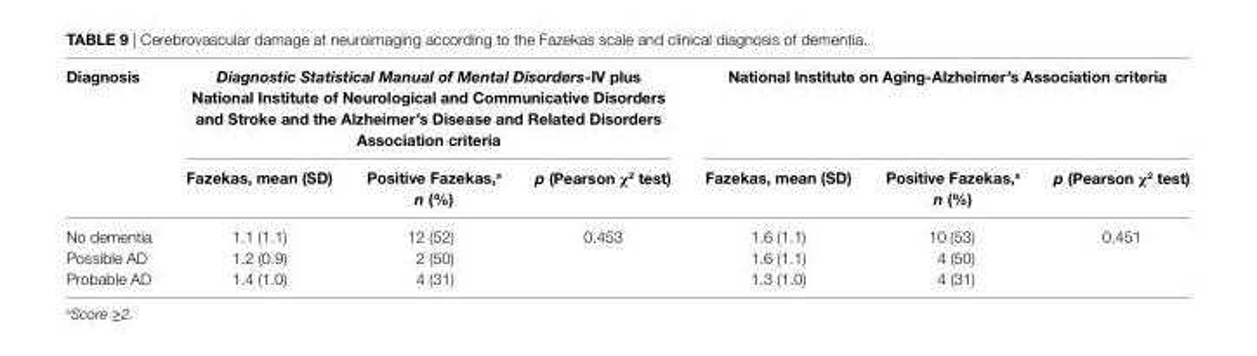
<table><thead><tr><td rowspan="2">Diagnosis</td><td colspan="3">Diagnostic Statistical Manual of Mental Disorders-iV plus national institute of neurological and communicative Disorders and stroke and the alzheimer’s Disease and related Disorders association criteria</td><td colspan="3">national institute on aging-alzheimer’s association criteria</td></tr><tr><td>Fazekas, mean (sD)</td><td>Positive Fazekas,<sup>a</sup> n (%)</td><td>p (Pearson χ<sup>2</sup> test)</td><td>Fazekas, mean (sD)</td><td>Positive Fazekas,<sup>a</sup> n (%)</td><td>p (Pearson χ<sup>2</sup> test)</td></tr></thead><tbody><tr><td>No dementia</td><td>1.1 (1.1)</td><td>12 (52)</td><td>0.453</td><td>1.6 (1.1)</td><td>10 (53)</td><td>0.451</td></tr><tr><td>Possible AD</td><td>1.2 (0.9)</td><td>2 (50)</td><td></td><td>1.6 (1.1)</td><td>4 (50)</td><td></td></tr><tr><td>Probable AD</td><td>1.4 (1.0)</td><td>4 (31)</td><td></td><td>1.3 (1.0)</td><td>4 (31)</td><td></td></tr></tbody></table>